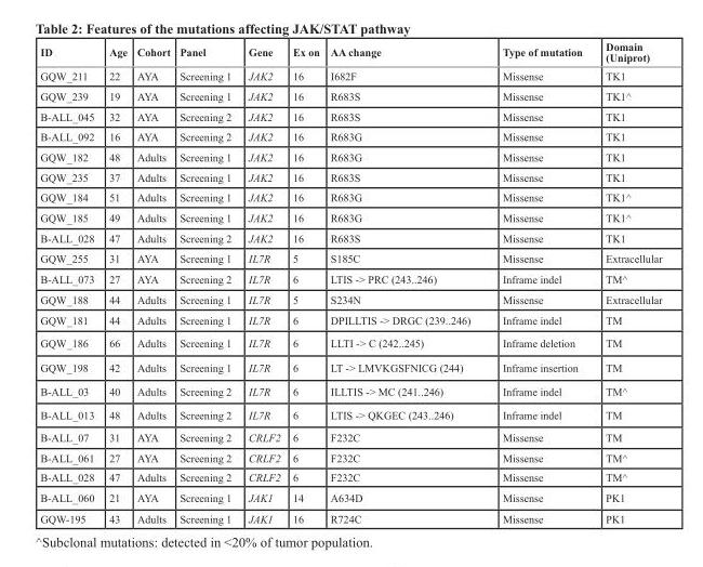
<table><thead><tr><td>ID</td><td>Age</td><td>Cohort</td><td>Panel</td><td>Gene</td><td>Ex on</td><td>AA change</td><td>Type of mutation</td><td>Domain (Uniprot)</td></tr></thead><tbody><tr><td>GQW_211</td><td>22</td><td>AYA</td><td>Screening 1</td><td>JAK2</td><td>16</td><td>I682F</td><td>Missense</td><td>TK1</td></tr><tr><td>GQW_239</td><td>19</td><td>AYA</td><td>Screening 1</td><td>JAK2</td><td>16</td><td>R683S</td><td>Missense</td><td>TK1^</td></tr><tr><td>B-ALL_045</td><td>32</td><td>AYA</td><td>Screening 2</td><td>JAK2</td><td>16</td><td>R683S</td><td>Missense</td><td>TK1</td></tr><tr><td>B-ALL_092</td><td>16</td><td>AYA</td><td>Screening 2</td><td>JAK2</td><td>16</td><td>R683G</td><td>Missense</td><td>TK1</td></tr><tr><td>GQW_182</td><td>48</td><td>Adults</td><td>Screening 1</td><td>JAK2</td><td>16</td><td>R683G</td><td>Missense</td><td>TK1</td></tr><tr><td>GQW_235</td><td>37</td><td>Adults</td><td>Screening 1</td><td>JAK2</td><td>16</td><td>R683S</td><td>Missense</td><td>TK1</td></tr><tr><td>GQW_184</td><td>51</td><td>Adults</td><td>Screening 1</td><td>JAK2</td><td>16</td><td>R683G</td><td>Missense</td><td>TK1^</td></tr><tr><td>GQW_185</td><td>49</td><td>Adults</td><td>Screening 1</td><td>JAK2</td><td>16</td><td>R683G</td><td>Missense</td><td>TK1^</td></tr><tr><td>B-ALL_028</td><td>47</td><td>Adults</td><td>Screening 2</td><td>JAK2</td><td>16</td><td>R683S</td><td>Missense</td><td>TK1</td></tr><tr><td>GQW_255</td><td>31</td><td>AYA</td><td>Screening 1</td><td>IL7R</td><td>5</td><td>S185C</td><td>Missense</td><td>Extracellular</td></tr><tr><td>B-ALL_073</td><td>27</td><td>AYA</td><td>Screening 2</td><td>IL7R</td><td>6</td><td>LTIS -&gt; PRC (243..246)</td><td>Inframe indel</td><td>TM^</td></tr><tr><td>GQW_188</td><td>44</td><td>Adults</td><td>Screening 1</td><td>IL7R</td><td>5</td><td>S234N</td><td>Missense</td><td>Extracellular</td></tr><tr><td>GQW_181</td><td>44</td><td>Adults</td><td>Screening 1</td><td>IL7R</td><td>6</td><td>DPILLTIS -&gt; DRGC (239..246)</td><td>Inframe indel</td><td>TM</td></tr><tr><td>GQW_186</td><td>66</td><td>Adults</td><td>Screening 1</td><td>IL7R</td><td>6</td><td>LLTI -&gt; C (242..245)</td><td>Inframe deletion</td><td>TM</td></tr><tr><td>GQW_198</td><td>42</td><td>Adults</td><td>Screening 1</td><td>IL7R</td><td>6</td><td>LT -&gt; LMVKGSFNICG (244)</td><td>Inframe insertion</td><td>TM</td></tr><tr><td>B-ALL_03</td><td>40</td><td>Adults</td><td>Screening 2</td><td>IL7R</td><td>6</td><td>ILLTIS -&gt; MC (241..246)</td><td>Inframe indel</td><td>TM^</td></tr><tr><td>B-ALL_013</td><td>48</td><td>Adults</td><td>Screening 2</td><td>IL7R</td><td>6</td><td>LTIS -&gt; QKGEC (243..246)</td><td>Inframe indel</td><td>TM</td></tr><tr><td>B-ALL_07</td><td>31</td><td>AYA</td><td>Screening 2</td><td>CRLF2</td><td>6</td><td>F232C</td><td>Missense</td><td>TM</td></tr><tr><td>B-ALL_061</td><td>27</td><td>AYA</td><td>Screening 2</td><td>CRLF2</td><td>6</td><td>F232C</td><td>Missense</td><td>TM^</td></tr><tr><td>B-ALL_028</td><td>47</td><td>Adults</td><td>Screening 2</td><td>CRLF2</td><td>6</td><td>F232C</td><td>Missense</td><td>TM^</td></tr><tr><td>B-ALL_060</td><td>21</td><td>AYA</td><td>Screening 1</td><td>JAK1</td><td>14</td><td>A634D</td><td>Missense</td><td>PK1</td></tr><tr><td>GQW-195</td><td>43</td><td>Adults</td><td>Screening 1</td><td>JAK1</td><td>16</td><td>R724C</td><td>Missense</td><td>PK1</td></tr></tbody></table>